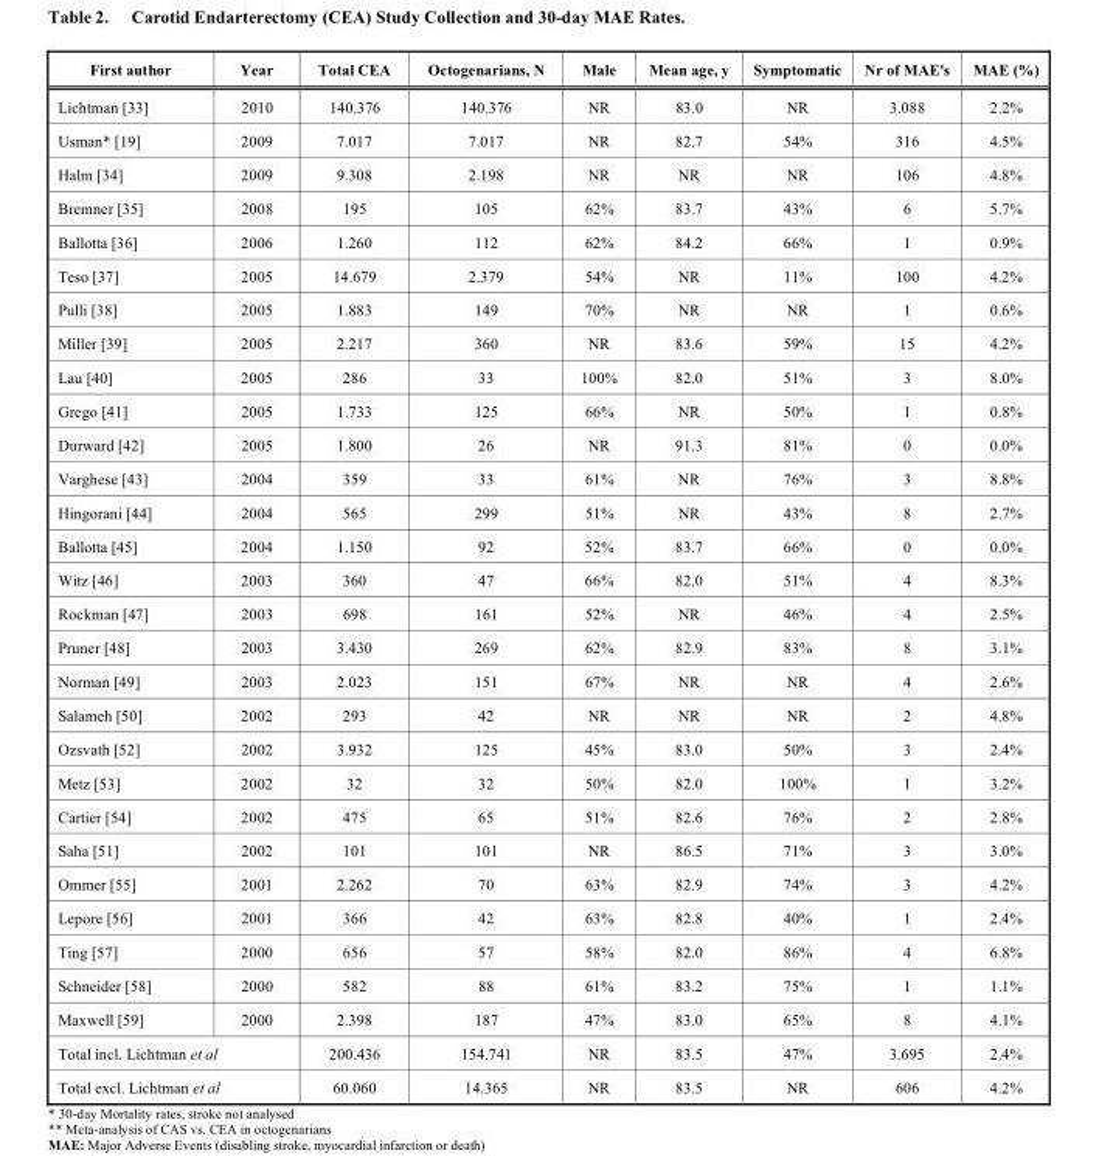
<table><thead><tr><td>First author</td><td>Year</td><td>Total CEA</td><td>Octogenarians, N</td><td>Male</td><td>Mean age, y</td><td>Symptomatic</td><td>Nr of MAE&#x27;s</td><td>MAE (%)</td></tr></thead><tbody><tr><td>Lichtman [33]</td><td>2010</td><td>140.376</td><td>140.376</td><td>NR</td><td>83.0</td><td>NR</td><td>3.088</td><td>2.2%</td></tr><tr><td>Usman* [19]</td><td>2009</td><td>7.017</td><td>7.017</td><td>NR</td><td>82.7</td><td>54%</td><td>316</td><td>4.5%</td></tr><tr><td>Halm [34]</td><td>2009</td><td>9.308</td><td>2.198</td><td>NR</td><td>NR</td><td>NR</td><td>106</td><td>4.8%</td></tr><tr><td>Bremner [35]</td><td>2008</td><td>195</td><td>105</td><td>62%</td><td>83.7</td><td>43%</td><td>6</td><td>5.7%</td></tr><tr><td>Ballotta [36]</td><td>2006</td><td>1.260</td><td>112</td><td>62%</td><td>84.2</td><td>66%</td><td>1</td><td>0.9%</td></tr><tr><td>Teso [37]</td><td>2005</td><td>14.679</td><td>2.379</td><td>54%</td><td>NR</td><td>11%</td><td>100</td><td>4.2%</td></tr><tr><td>Pulli [38]</td><td>2005</td><td>1.883</td><td>149</td><td>70%</td><td>NR</td><td>NR</td><td>1</td><td>0.6%</td></tr><tr><td>Miller [39]</td><td>2005</td><td>2.217</td><td>360</td><td>NR</td><td>83.6</td><td>59%</td><td>15</td><td>4.2%</td></tr><tr><td>Lau [40]</td><td>2005</td><td>286</td><td>33</td><td>100%</td><td>82.0</td><td>51%</td><td>3</td><td>8.0%</td></tr><tr><td>Grego [41]</td><td>2005</td><td>1.733</td><td>125</td><td>66%</td><td>NR</td><td>50%</td><td>1</td><td>0.8%</td></tr><tr><td>Durward [42]</td><td>2005</td><td>1.800</td><td>26</td><td>NR</td><td>91.3</td><td>81%</td><td>0</td><td>0.0%</td></tr><tr><td>Varghese [43]</td><td>2004</td><td>359</td><td>33</td><td>61%</td><td>NR</td><td>76%</td><td>3</td><td>8.8%</td></tr><tr><td>Hingorani [44]</td><td>2004</td><td>565</td><td>299</td><td>51%</td><td>NR</td><td>43%</td><td>8</td><td>2.7%</td></tr><tr><td>Ballotta [45]</td><td>2004</td><td>1.150</td><td>92</td><td>52%</td><td>83.7</td><td>66%</td><td>0</td><td>0.0%</td></tr><tr><td>Witz [46]</td><td>2003</td><td>360</td><td>47</td><td>66%</td><td>82.0</td><td>51%</td><td>4</td><td>8.3%</td></tr><tr><td>Rockman [47]</td><td>2003</td><td>698</td><td>161</td><td>52%</td><td>NR</td><td>46%</td><td>4</td><td>2.5%</td></tr><tr><td>Pruner [48]</td><td>2003</td><td>3.430</td><td>269</td><td>62%</td><td>82.9</td><td>83%</td><td>8</td><td>3.1%</td></tr><tr><td>Norman [49]</td><td>2003</td><td>2.023</td><td>151</td><td>67%</td><td>NR</td><td>NR</td><td>4</td><td>2.6%</td></tr><tr><td>Salameh [50]</td><td>2002</td><td>293</td><td>42</td><td>NR</td><td>NR</td><td>NR</td><td>2</td><td>4.8%</td></tr><tr><td>Ozsvath [52]</td><td>2002</td><td>3.932</td><td>125</td><td>45%</td><td>83.0</td><td>50%</td><td>3</td><td>2.4%</td></tr><tr><td>Metz [53]</td><td>2002</td><td>32</td><td>32</td><td>50%</td><td>82.0</td><td>100%</td><td>1</td><td>3.2%</td></tr><tr><td>Cartier [54]</td><td>2002</td><td>475</td><td>65</td><td>51%</td><td>82.6</td><td>76%</td><td>2</td><td>2.8%</td></tr><tr><td>Saha [51]</td><td>2002</td><td>101</td><td>101</td><td>NR</td><td>86.5</td><td>71%</td><td>3</td><td>3.0%</td></tr><tr><td>Ommer [55]</td><td>2001</td><td>2.262</td><td>70</td><td>63%</td><td>82.9</td><td>74%</td><td>3</td><td>4.2%</td></tr><tr><td>Lepore [56]</td><td>2001</td><td>366</td><td>42</td><td>63%</td><td>82.8</td><td>40%</td><td>1</td><td>2.4%</td></tr><tr><td>Ting [57]</td><td>2000</td><td>656</td><td>57</td><td>58%</td><td>82.0</td><td>86%</td><td>4</td><td>6.8%</td></tr><tr><td>Schneider [58]</td><td>2000</td><td>582</td><td>88</td><td>61%</td><td>83.2</td><td>75%</td><td>1</td><td>1.1%</td></tr><tr><td>Maxwell [59]</td><td>2000</td><td>2.398</td><td>187</td><td>47%</td><td>83.0</td><td>65%</td><td>8</td><td>4.1%</td></tr><tr><td colspan="2">Total incl. Lichtman et al</td><td>200.436</td><td>154.741</td><td>NR</td><td>83.5</td><td>47%</td><td>3.695</td><td>2.4%</td></tr><tr><td colspan="2">Total excl. Lichtman et al</td><td>60.060</td><td>14.365</td><td>NR</td><td>83.5</td><td>NR</td><td>606</td><td>4.2%</td></tr></tbody></table>